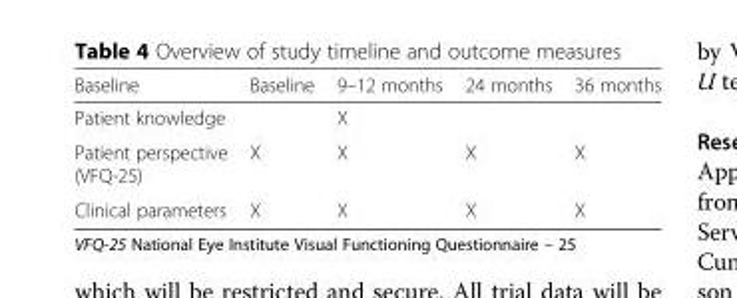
<table><thead><tr><td>Baseline</td><td>Baseline</td><td>9–12 months</td><td>24 months</td><td>36 months</td></tr></thead><tbody><tr><td>Patient knowledge</td><td></td><td>X</td><td></td><td></td></tr><tr><td>Patient perspective (VFQ-25)</td><td>X</td><td>X</td><td>X</td><td>X</td></tr><tr><td>Clinical parameters</td><td>X</td><td>X</td><td>X</td><td>X</td></tr></tbody></table>